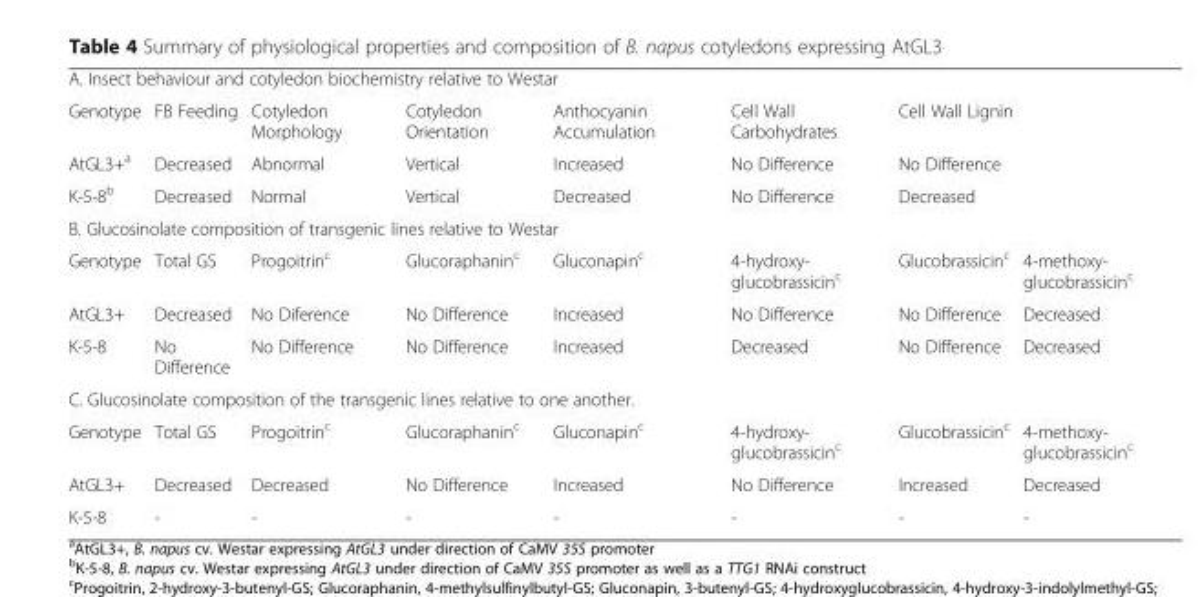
<table><tbody><tr><td colspan="8">A. Insect behaviour and cotyledon biochemistry relative to Westar</td></tr><tr><td>Genotype</td><td>FB Feeding</td><td>Cotyledon Morphology</td><td>Cotyledon Orientation</td><td>Anthocyanin Accumulation</td><td>Cell Wall Carbohydrates</td><td colspan="2">Cell Wall Lignin</td></tr><tr><td>AtGL3+<sup>a</sup></td><td>Decreased</td><td>Abnormal</td><td>Vertical</td><td>Increased</td><td>No Difference</td><td colspan="2">No Difference</td></tr><tr><td>K-5-8<sup>b</sup></td><td>Decreased</td><td>Normal</td><td>Vertical</td><td>Decreased</td><td>No Difference</td><td colspan="2">Decreased</td></tr><tr><td colspan="8">B. Glucosinolate composition of transgenic lines relative to Westar</td></tr><tr><td>Genotype</td><td>Total GS</td><td>Progoitrin<sup>c</sup></td><td>Glucoraphanin<sup>c</sup></td><td>Gluconapin<sup>c</sup></td><td>4-hydroxy- glucobrassicin<sup>c</sup></td><td>Glucobrassicin<sup>c</sup></td><td>4-methoxy- glucobrassicin<sup>c</sup></td></tr><tr><td>AtGL3+</td><td>Decreased</td><td>No Diference</td><td>No Difference</td><td>Increased</td><td>No Difference</td><td>No Difference</td><td>Decreased</td></tr><tr><td>K-5-8</td><td>No Difference</td><td>No Difference</td><td>No Difference</td><td>Increased</td><td>Decreased</td><td>No Difference</td><td>Decreased</td></tr><tr><td colspan="8">C. Glucosinolate composition of the transgenic lines relative to one another.</td></tr><tr><td>Genotype</td><td>Total GS</td><td>Progoitrin<sup>c</sup></td><td>Glucoraphanin<sup>c</sup></td><td>Gluconapin<sup>c</sup></td><td>4-hydroxy- glucobrassicin<sup>c</sup></td><td>Glucobrassicin<sup>c</sup></td><td>4-methoxy- glucobrassicin<sup>c</sup></td></tr><tr><td>AtGL3+</td><td>Decreased</td><td>Decreased</td><td>No Difference</td><td>Increased</td><td>No Difference</td><td>Increased</td><td>Decreased</td></tr><tr><td>K-5-8</td><td>-</td><td>-</td><td>-</td><td>-</td><td>-</td><td>-</td><td>-</td></tr></tbody></table>